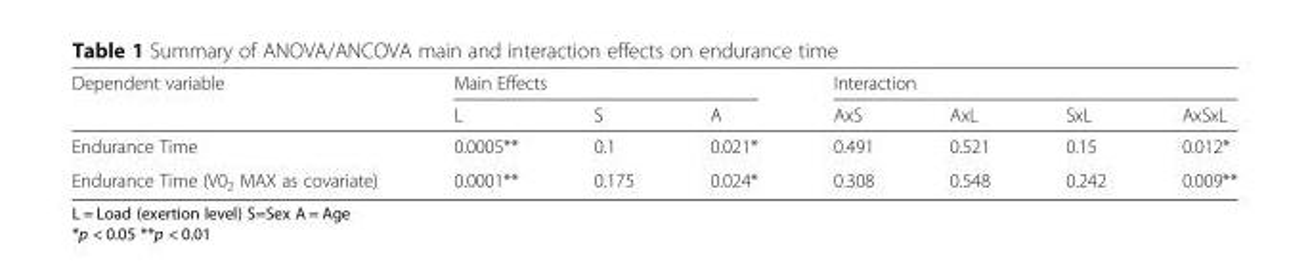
<table><thead><tr><td rowspan="2">Dependent variable</td><td colspan="3">Main Effects</td><td colspan="4">Interaction</td></tr><tr><td>L</td><td>S</td><td>A</td><td>AxS</td><td>AxL</td><td>SxL</td><td>AxSxL</td></tr></thead><tbody><tr><td>Endurance Time</td><td>0.0005**</td><td>0.1</td><td>0.021*</td><td>0.491</td><td>0.521</td><td>0.15</td><td>0.012*</td></tr><tr><td>Endurance Time (V0<sub>2</sub> MAX as covariate)</td><td>0.0001**</td><td>0.175</td><td>0.024*</td><td>0.308</td><td>0.548</td><td>0.242</td><td>0.009**</td></tr></tbody></table>